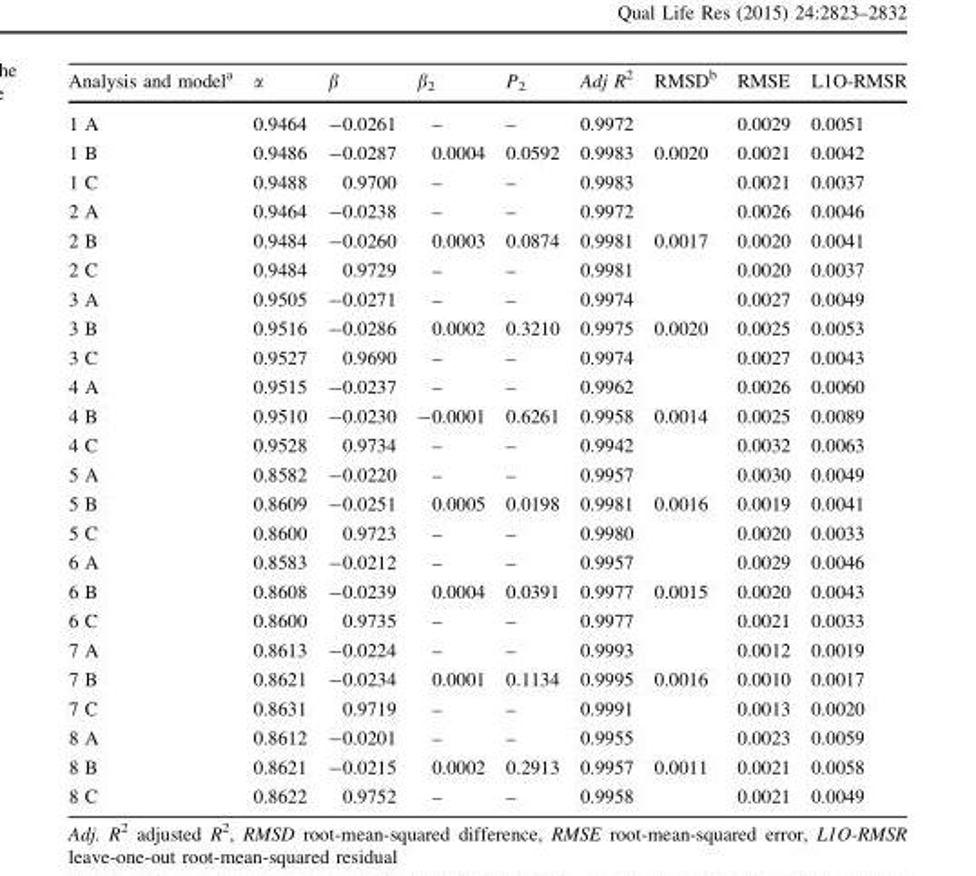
<table><thead><tr><td>Analysis and model<sup>a</sup></td><td>α</td><td>β</td><td>β<sub>2</sub></td><td>P<sub>2</sub></td><td>Adj R<sup>2</sup></td><td>RMSD<sup>b</sup></td><td>RMSE</td><td>L1O-RMSR</td></tr></thead><tbody><tr><td>1 A</td><td>0.9464</td><td>-0.0261</td><td>–</td><td>–</td><td>0.9972</td><td></td><td>0.0029</td><td>0.0051</td></tr><tr><td>1 B</td><td>0.9486</td><td>-0.0287</td><td>0.0004</td><td>0.0592</td><td>0.9983</td><td>0.0020</td><td>0.0021</td><td>0.0042</td></tr><tr><td>1 C</td><td>0.9488</td><td>0.9700</td><td>–</td><td>–</td><td>0.9983</td><td></td><td>0.0021</td><td>0.0037</td></tr><tr><td>2 A</td><td>0.9464</td><td>-0.0238</td><td>–</td><td>–</td><td>0.9972</td><td></td><td>0.0026</td><td>0.0046</td></tr><tr><td>2 B</td><td>0.9484</td><td>-0.0260</td><td>0.0003</td><td>0.0874</td><td>0.9981</td><td>0.0017</td><td>0.0020</td><td>0.0041</td></tr><tr><td>2 C</td><td>0.9484</td><td>0.9729</td><td>–</td><td>–</td><td>0.9981</td><td></td><td>0.0020</td><td>0.0037</td></tr><tr><td>3 A</td><td>0.9505</td><td>-0.0271</td><td>–</td><td>–</td><td>0.9974</td><td></td><td>0.0027</td><td>0.0049</td></tr><tr><td>3 B</td><td>0.9516</td><td>-0.0286</td><td>0.0002</td><td>0.3210</td><td>0.9975</td><td>0.0020</td><td>0.0025</td><td>0.0053</td></tr><tr><td>3 C</td><td>0.9527</td><td>0.9690</td><td>–</td><td>–</td><td>0.9974</td><td></td><td>0.0027</td><td>0.0043</td></tr><tr><td>4 A</td><td>0.9515</td><td>-0.0237</td><td>–</td><td>–</td><td>0.9962</td><td></td><td>0.0026</td><td>0.0060</td></tr><tr><td>4 B</td><td>0.9510</td><td>-0.0230</td><td>-0.0001</td><td>0.6261</td><td>0.9958</td><td>0.0014</td><td>0.0025</td><td>0.0089</td></tr><tr><td>4 C</td><td>0.9528</td><td>0.9734</td><td>–</td><td>–</td><td>0.9942</td><td></td><td>0.0032</td><td>0.0063</td></tr><tr><td>5 A</td><td>0.8582</td><td>-0.0220</td><td>–</td><td>–</td><td>0.9957</td><td></td><td>0.0030</td><td>0.0049</td></tr><tr><td>5 B</td><td>0.8609</td><td>-0.0251</td><td>0.0005</td><td>0.0198</td><td>0.9981</td><td>0.0016</td><td>0.0019</td><td>0.0041</td></tr><tr><td>5 C</td><td>0.8600</td><td>0.9723</td><td>–</td><td>–</td><td>0.9980</td><td></td><td>0.0020</td><td>0.0033</td></tr><tr><td>6 A</td><td>0.8583</td><td>-0.0212</td><td>–</td><td>–</td><td>0.9957</td><td></td><td>0.0029</td><td>0.0046</td></tr><tr><td>6 B</td><td>0.8608</td><td>-0.0239</td><td>0.0004</td><td>0.0391</td><td>0.9977</td><td>0.0015</td><td>0.0020</td><td>0.0043</td></tr><tr><td>6 C</td><td>0.8600</td><td>0.9735</td><td>–</td><td>–</td><td>0.9977</td><td></td><td>0.0021</td><td>0.0033</td></tr><tr><td>7 A</td><td>0.8613</td><td>-0.0224</td><td>–</td><td>–</td><td>0.9993</td><td></td><td>0.0012</td><td>0.0019</td></tr><tr><td>7 B</td><td>0.8621</td><td>-0.0234</td><td>0.0001</td><td>0.1134</td><td>0.9995</td><td>0.0016</td><td>0.0010</td><td>0.0017</td></tr><tr><td>7 C</td><td>0.8631</td><td>0.9719</td><td>–</td><td>–</td><td>0.9991</td><td></td><td>0.0013</td><td>0.0020</td></tr><tr><td>8 A</td><td>0.8612</td><td>-0.0201</td><td>–</td><td>–</td><td>0.9955</td><td></td><td>0.0023</td><td>0.0059</td></tr><tr><td>8 B</td><td>0.8621</td><td>-0.0215</td><td>0.0002</td><td>0.2913</td><td>0.9957</td><td>0.0011</td><td>0.0021</td><td>0.0058</td></tr><tr><td>8 C</td><td>0.8622</td><td>0.9752</td><td>–</td><td>–</td><td>0.9958</td><td></td><td>0.0021</td><td>0.0049</td></tr></tbody></table>